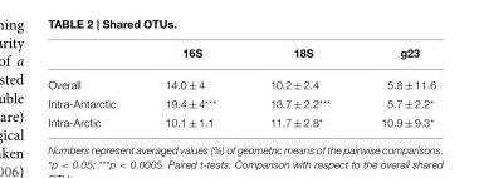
<table><thead><tr><td></td><td>16S</td><td>18S</td><td>g23</td></tr></thead><tbody><tr><td>Overall</td><td>14.0 ± 4</td><td>10.2 ± 2.4</td><td>5.8 ± 11.6</td></tr><tr><td>Intra-Antarctic</td><td>19.4 ± 4***</td><td>13.7 ± 2.2***</td><td>5.7 ± 2.2*</td></tr><tr><td>Intra-Arctic</td><td>10.1 ± 1.1</td><td>11.7 ± 2.8*</td><td>10.9 ± 9.3*</td></tr></tbody></table>